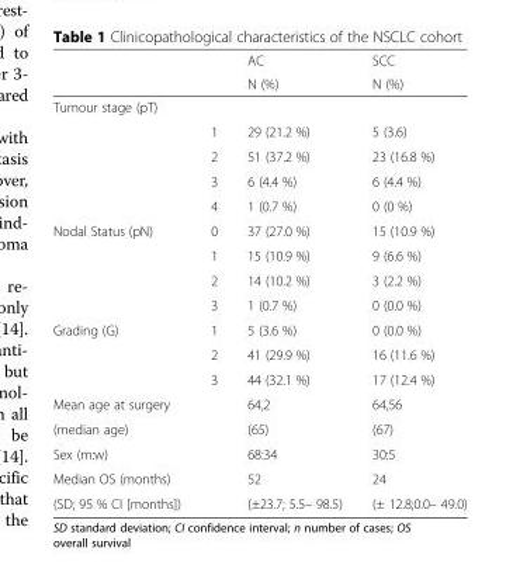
<table><thead><tr><td rowspan="2"></td><td rowspan="2"></td><td rowspan="2">AC N (%)</td><td rowspan="2">SCC N (%)</td></tr><tr></tr></thead><tbody><tr><td colspan="4">Tumour stage (pT)</td></tr><tr><td></td><td>1</td><td>29 (21.2 %)</td><td>5 (3.6)</td></tr><tr><td></td><td>2</td><td>51 (37.2 %)</td><td>23 (16.8 %)</td></tr><tr><td></td><td>3</td><td>6 (4.4 %)</td><td>6 (4.4 %)</td></tr><tr><td></td><td>4</td><td>1 (0.7 %)</td><td>0 (0 %)</td></tr><tr><td rowspan="4">Nodal Status (pN)</td><td>0</td><td>37 (27.0 %)</td><td>15 (10.9 %)</td></tr><tr><td>1</td><td>15 (10.9 %)</td><td>9 (6.6 %)</td></tr><tr><td>2</td><td>14 (10.2 %)</td><td>3 (2.2 %)</td></tr><tr><td>3</td><td>1 (0.7 %)</td><td>0 (0.0 %)</td></tr><tr><td rowspan="3">Grading (G)</td><td>1</td><td>5 (3.6 %)</td><td>0 (0.0 %)</td></tr><tr><td>2</td><td>41 (29.9 %)</td><td>16 (11.6 %)</td></tr><tr><td>3</td><td>44 (32.1 %)</td><td>17 (12.4 %)</td></tr><tr><td>Mean age at surgery</td><td></td><td>64,2</td><td>64,56</td></tr><tr><td>(median age)</td><td></td><td>(65)</td><td>(67)</td></tr><tr><td>Sex (m:w)</td><td></td><td>68:34</td><td>30:5</td></tr><tr><td>Median OS (months)</td><td></td><td>52</td><td>24</td></tr><tr><td>(SD; 95 % CI [months])</td><td></td><td>(±23.7; 5.5– 98.5)</td><td>(± 12.8;0.0– 49.0)</td></tr></tbody></table>